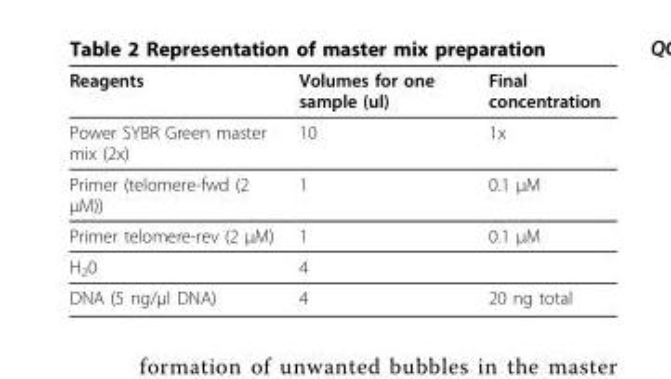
<table><thead><tr><td>Reagents</td><td>Volumes for one sample (ul)</td><td>Final concentration</td></tr></thead><tbody><tr><td>Power SYBR Green master mix (2x)</td><td>10</td><td>1x</td></tr><tr><td>Primer (telomere-fwd (2 μM))</td><td>1</td><td>0.1 μM</td></tr><tr><td>Primer telomere-rev (2 μM)</td><td>1</td><td>0.1 μM</td></tr><tr><td>H<sub>2</sub>0</td><td>4</td><td></td></tr><tr><td>DNA (5 ng/μl DNA)</td><td>4</td><td>20 ng total</td></tr></tbody></table>